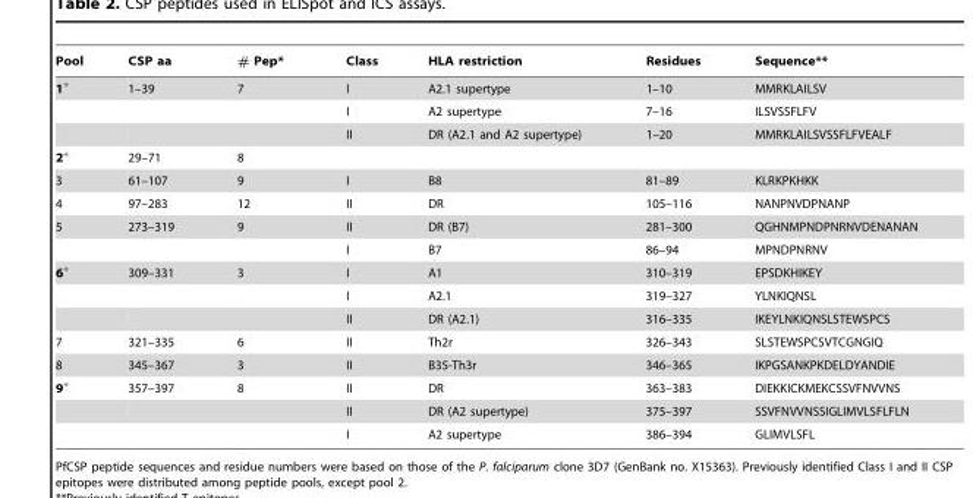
<table><thead><tr><td>Pool</td><td>CSP aa</td><td># Pep*</td><td>Class</td><td>HLA restriction</td><td>Residues</td><td>Sequence**</td></tr></thead><tbody><tr><td rowspan="3">1+</td><td>1–39</td><td>7</td><td>I</td><td>A2.1 supertype</td><td>1–10</td><td>MMRKLAILSV</td></tr><tr><td></td><td></td><td>I</td><td>A2 supertype</td><td>7–16</td><td>ILSVSSFLFV</td></tr><tr><td></td><td></td><td>II</td><td>DR (A2.1 and A2 supertype)</td><td>1–20</td><td>MMRKLAILSVSSFLFVEALF</td></tr><tr><td>2+</td><td>29–71</td><td>8</td><td></td><td></td><td></td><td></td></tr><tr><td>3</td><td>61–107</td><td>9</td><td>I</td><td>B8</td><td>81–89</td><td>KLRKPKHKK</td></tr><tr><td>4</td><td>97–283</td><td>12</td><td>II</td><td>DR</td><td>105–116</td><td>NANPNVDPNANP</td></tr><tr><td rowspan="2">5</td><td>273–319</td><td>9</td><td>II</td><td>DR (B7)</td><td>281–300</td><td>QGHNMPNDPNRNVDENANAN</td></tr><tr><td></td><td></td><td>I</td><td>B7</td><td>86–94</td><td>MPNDPNRNV</td></tr><tr><td rowspan="3">6+</td><td>309–331</td><td>3</td><td>I</td><td>A1</td><td>310–319</td><td>EPSDKHIKEY</td></tr><tr><td></td><td></td><td>I</td><td>A2.1</td><td>319–327</td><td>YLNKIQNSL</td></tr><tr><td></td><td></td><td>II</td><td>DR (A2.1)</td><td>316–335</td><td>IKEYLNKIQNSLSTEWSPCS</td></tr><tr><td>7</td><td>321–335</td><td>6</td><td>II</td><td>Th2r</td><td>326–343</td><td>SLSTEWSPCSVTCGNGIQ</td></tr><tr><td>8</td><td>345–367</td><td>3</td><td>II</td><td>B35-Th3r</td><td>346–365</td><td>IKPGSANKPKDELDYANDIE</td></tr><tr><td rowspan="3">9+</td><td>357–397</td><td>8</td><td>II</td><td>DR</td><td>363–383</td><td>DIEKKICKMEKCSSVFNVVNS</td></tr><tr><td></td><td></td><td>II</td><td>DR (A2 supertype)</td><td>375–397</td><td>SSVFNVVNSSIGLIMVLSFLFLN</td></tr><tr><td></td><td></td><td>I</td><td>A2 supertype</td><td>386–394</td><td>GLIMVLSFL</td></tr></tbody></table>